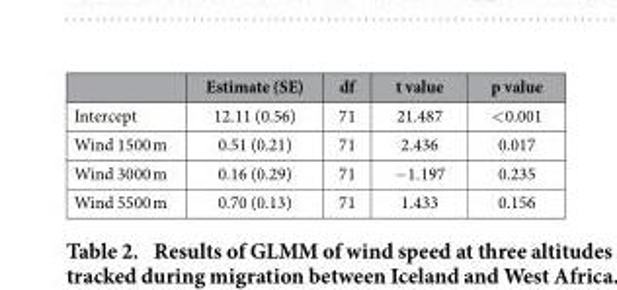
<table><thead><tr><td></td><td>Estimate (SE)</td><td>df</td><td>t value</td><td>p value</td></tr></thead><tbody><tr><td>Intercept</td><td>12.11 (0.56)</td><td>71</td><td>21.487</td><td>&lt; 0.001</td></tr><tr><td>Wind 1500 m</td><td>0.51 (0.21)</td><td>71</td><td>2.436</td><td>0.017</td></tr><tr><td>Wind 3000 m</td><td>0.16 (0.29)</td><td>71</td><td>− 1.197</td><td>0.235</td></tr><tr><td>Wind 5500 m</td><td>0.70 (0.13)</td><td>71</td><td>1.433</td><td>0.156</td></tr></tbody></table>